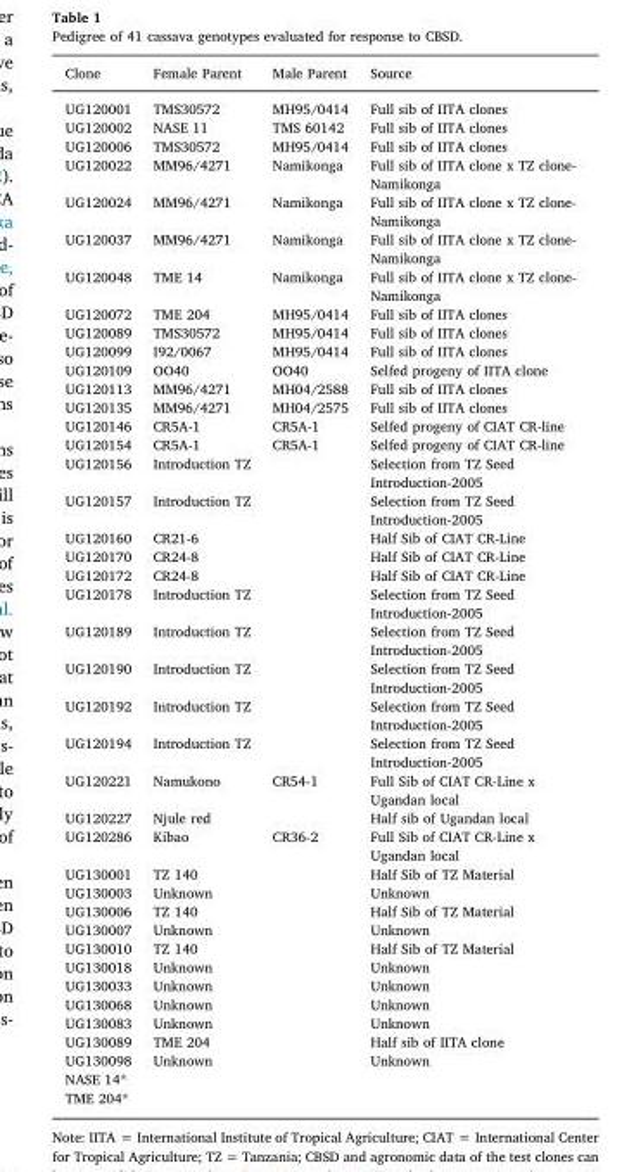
<table><thead><tr><td>Clone</td><td>Female Parent</td><td>Male Parent</td><td>Source</td></tr></thead><tbody><tr><td>UG120001</td><td>TMS30572</td><td>MH95/0414</td><td>Full sib of IITA clones</td></tr><tr><td>UG120002</td><td>NASE 11</td><td>TMS 60142</td><td>Full sib of IITA clones</td></tr><tr><td>UG120006</td><td>TMS30572</td><td>MH95/0414</td><td>Full sib of IITA clones</td></tr><tr><td>UG120022</td><td>MM96/4271</td><td>Namikonga</td><td>Full sib of IITA clone x TZ clone- Namikonga</td></tr><tr><td>UG120024</td><td>MM96/4271</td><td>Namikonga</td><td>Full sib of IITA clone x TZ clone- Namikonga</td></tr><tr><td>UG120037</td><td>MM96/4271</td><td>Namikonga</td><td>Full sib of IITA clone x TZ clone- Namikonga</td></tr><tr><td>UG120048</td><td>TME 14</td><td>Namikonga</td><td>Full sib of IITA clone x TZ clone- Namikonga</td></tr><tr><td>UG120072</td><td>TME 204</td><td>MH95/0414</td><td>Full sib of IITA clones</td></tr><tr><td>UG120089</td><td>TMS30572</td><td>MH95/0414</td><td>Full sib of IITA clones</td></tr><tr><td>UG120099</td><td>I92/0067</td><td>MH95/0414</td><td>Full sib of IITA clones</td></tr><tr><td>UG120109</td><td>OO40</td><td>OO40</td><td>Selfed progeny of IITA clone</td></tr><tr><td>UG120113</td><td>MM96/4271</td><td>MH04/2588</td><td>Full sib of IITA clones</td></tr><tr><td>UG120135</td><td>MM96/4271</td><td>MH04/2575</td><td>Full sib of IITA clones</td></tr><tr><td>UG120146</td><td>CR5A-1</td><td>CR5A-1</td><td>Selfed progeny of CIAT CR-line</td></tr><tr><td>UG120154</td><td>CR5A-1</td><td>CR5A-1</td><td>Selfed progeny of CIAT CR-line</td></tr><tr><td>UG120156</td><td>Introduction TZ</td><td></td><td>Selection from TZ Seed Introduction-2005</td></tr><tr><td>UG120157</td><td>Introduction TZ</td><td></td><td>Selection from TZ Seed Introduction-2005</td></tr><tr><td>UG120160</td><td>CR21-6</td><td></td><td>Half Sib of CIAT CR-Line</td></tr><tr><td>UG120170</td><td>CR24-8</td><td></td><td>Half Sib of CIAT CR-Line</td></tr><tr><td>UG120172</td><td>CR24-8</td><td></td><td>Half Sib of CIAT CR-Line</td></tr><tr><td>UG120178</td><td>Introduction TZ</td><td></td><td>Selection from TZ Seed Introduction-2005</td></tr><tr><td>UG120189</td><td>Introduction TZ</td><td></td><td>Selection from TZ Seed Introduction-2005</td></tr><tr><td>UG120190</td><td>Introduction TZ</td><td></td><td>Selection from TZ Seed Introduction-2005</td></tr><tr><td>UG120192</td><td>Introduction TZ</td><td></td><td>Selection from TZ Seed Introduction-2005</td></tr><tr><td>UG120194</td><td>Introduction TZ</td><td></td><td>Selection from TZ Seed Introduction-2005</td></tr><tr><td>UG120221</td><td>Namukono</td><td>CR54-1</td><td>Full Sib of CIAT CR-Line x Ugandan local</td></tr><tr><td>UG120227</td><td>Njule red</td><td></td><td>Half sib of Ugandan local</td></tr><tr><td>UG120286</td><td>Kibao</td><td>CR36-2</td><td>Full Sib of CIAT CR-Line x Ugandan local</td></tr><tr><td>UG130001</td><td>TZ 140</td><td></td><td>Half Sib of TZ Material</td></tr><tr><td>UG130003</td><td>Unknown</td><td></td><td>Unknown</td></tr><tr><td>UG130006</td><td>TZ 140</td><td></td><td>Half Sib of TZ Material</td></tr><tr><td>UG130007</td><td>Unknown</td><td></td><td>Unknown</td></tr><tr><td>UG130010</td><td>TZ 140</td><td></td><td>Half Sib of TZ Material</td></tr><tr><td>UG130018</td><td>Unknown</td><td></td><td>Unknown</td></tr><tr><td>UG130033</td><td>Unknown</td><td></td><td>Unknown</td></tr><tr><td>UG130068</td><td>Unknown</td><td></td><td>Unknown</td></tr><tr><td>UG130083</td><td>Unknown</td><td></td><td>Unknown</td></tr><tr><td>UG130089</td><td>TME 204</td><td></td><td>Half sib of IITA clone</td></tr><tr><td>UG130098</td><td>Unknown</td><td></td><td>Unknown</td></tr><tr><td colspan="4">NASE 14*</td></tr><tr><td colspan="4">TME 204*</td></tr></tbody></table>